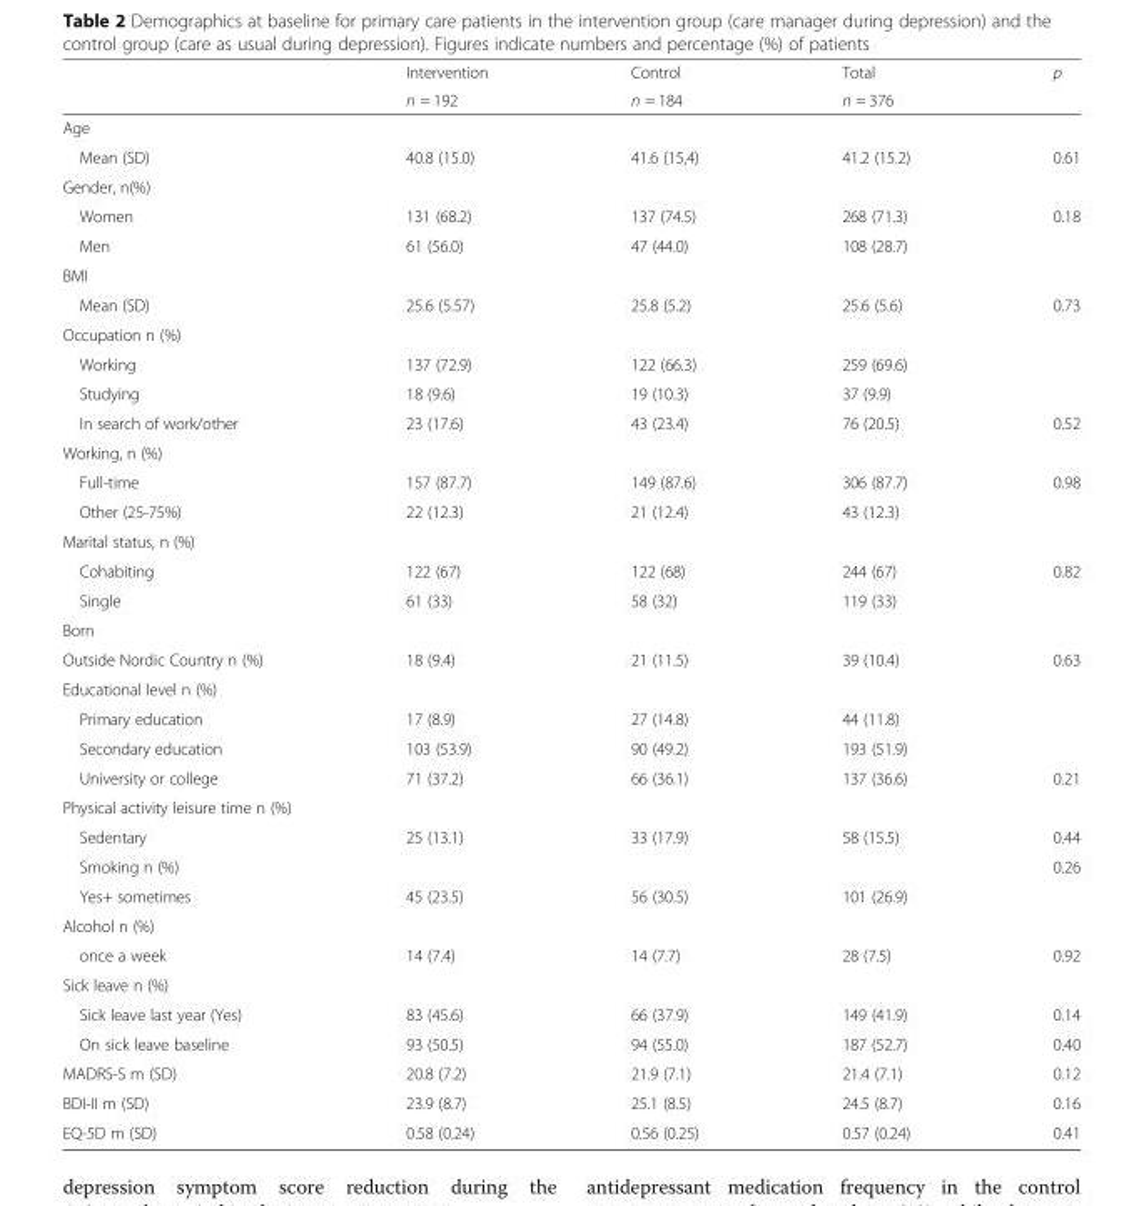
<table><thead><tr><td rowspan="2"></td><td rowspan="2">Intervention n = 192</td><td rowspan="2">Control n = 184</td><td rowspan="2">Total n = 376</td><td rowspan="2">p</td></tr><tr></tr></thead><tbody><tr><td colspan="5">Age</td></tr><tr><td>Mean (SD)</td><td>40.8 (15.0)</td><td>41.6 (15,4)</td><td>41.2 (15.2)</td><td>0.61</td></tr><tr><td colspan="5">Gender, n(%)</td></tr><tr><td>Women</td><td>131 (68.2)</td><td>137 (74.5)</td><td>268 (71.3)</td><td>0.18</td></tr><tr><td>Men</td><td>61 (56.0)</td><td>47 (44.0)</td><td>108 (28.7)</td><td></td></tr><tr><td colspan="5">BMI</td></tr><tr><td>Mean (SD)</td><td>25.6 (5.57)</td><td>25.8 (5.2)</td><td>25.6 (5.6)</td><td>0.73</td></tr><tr><td colspan="5">Occupation n (%)</td></tr><tr><td>Working</td><td>137 (72.9)</td><td>122 (66.3)</td><td>259 (69.6)</td><td></td></tr><tr><td>Studying</td><td>18 (9.6)</td><td>19 (10.3)</td><td>37 (9.9)</td><td></td></tr><tr><td>In search of work/other</td><td>23 (17.6)</td><td>43 (23.4)</td><td>76 (20.5)</td><td>0.52</td></tr><tr><td colspan="5">Working, n (%)</td></tr><tr><td>Full-time</td><td>157 (87.7)</td><td>149 (87.6)</td><td>306 (87.7)</td><td>0.98</td></tr><tr><td>Other (25-75%)</td><td>22 (12.3)</td><td>21 (12.4)</td><td>43 (12.3)</td><td></td></tr><tr><td colspan="5">Marital status, n (%)</td></tr><tr><td>Cohabiting</td><td>122 (67)</td><td>122 (68)</td><td>244 (67)</td><td>0.82</td></tr><tr><td>Single</td><td>61 (33)</td><td>58 (32)</td><td>119 (33)</td><td></td></tr><tr><td colspan="5">Born</td></tr><tr><td>Outside Nordic Country n (%)</td><td>18 (9.4)</td><td>21 (11.5)</td><td>39 (10.4)</td><td>0.63</td></tr><tr><td colspan="5">Educational level n (%)</td></tr><tr><td>Primary education</td><td>17 (8.9)</td><td>27 (14.8)</td><td>44 (11.8)</td><td></td></tr><tr><td>Secondary education</td><td>103 (53.9)</td><td>90 (49.2)</td><td>193 (51.9)</td><td></td></tr><tr><td>University or college</td><td>71 (37.2)</td><td>66 (36.1)</td><td>137 (36.6)</td><td>0.21</td></tr><tr><td colspan="5">Physical activity leisure time n (%)</td></tr><tr><td>Sedentary</td><td>25 (13.1)</td><td>33 (17.9)</td><td>58 (15.5)</td><td>0.44</td></tr><tr><td>Smoking n (%)</td><td></td><td></td><td></td><td>0.26</td></tr><tr><td>Yes+ sometimes</td><td>45 (23.5)</td><td>56 (30.5)</td><td>101 (26.9)</td><td></td></tr><tr><td colspan="5">Alcohol n (%)</td></tr><tr><td>once a week</td><td>14 (7.4)</td><td>14 (7.7)</td><td>28 (7.5)</td><td>0.92</td></tr><tr><td colspan="5">Sick leave n (%)</td></tr><tr><td>Sick leave last year (Yes)</td><td>83 (45.6)</td><td>66 (37.9)</td><td>149 (41.9)</td><td>0.14</td></tr><tr><td>On sick leave baseline</td><td>93 (50.5)</td><td>94 (55.0)</td><td>187 (52.7)</td><td>0.40</td></tr><tr><td>MADRS-S m (SD)</td><td>20.8 (7.2)</td><td>21.9 (7.1)</td><td>21.4 (7.1)</td><td>0.12</td></tr><tr><td>BDI-II m (SD)</td><td>23.9 (8.7)</td><td>25.1 (8.5)</td><td>24.5 (8.7)</td><td>0.16</td></tr><tr><td>EQ-5D m (SD)</td><td>0.58 (0.24)</td><td>0.56 (0.25)</td><td>0.57 (0.24)</td><td>0.41</td></tr></tbody></table>